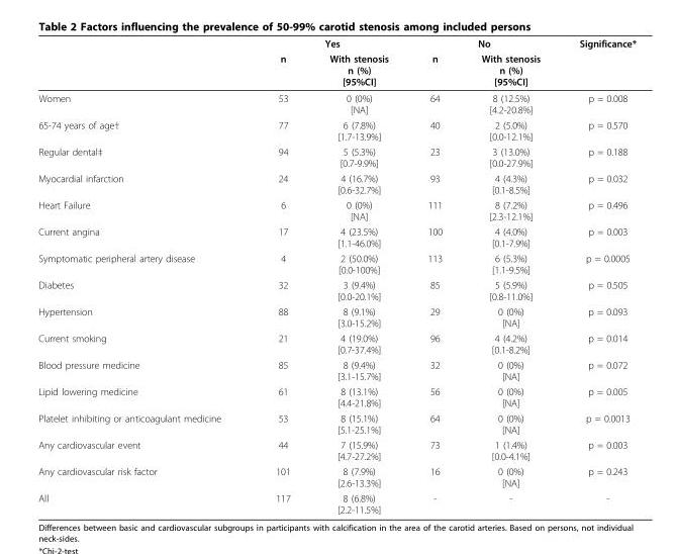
<table><thead><tr><td rowspan="2"></td><td colspan="2">Yes</td><td colspan="2">No</td><td rowspan="2">Significance*</td></tr><tr><td>n</td><td>With stenosis n (%) [95%CI]</td><td>n</td><td>With stenosis n (%) [95%CI]</td></tr></thead><tbody><tr><td>Women</td><td>53</td><td>0 (0%) [NA]</td><td>64</td><td>8 (12.5%) [4.2-20.8%]</td><td>p = 0.008</td></tr><tr><td>65-74 years of age†</td><td>77</td><td>6 (7.8%) [1.7-13.9%]</td><td>40</td><td>2 (5.0%) [0.0-12.1%]</td><td>p = 0.570</td></tr><tr><td>Regular dental‡</td><td>94</td><td>5 (5.3%) [0.7-9.9%]</td><td>23</td><td>3 (13.0%) [0.0-27.9%]</td><td>p = 0.188</td></tr><tr><td>Myocardial infarction</td><td>24</td><td>4 (16.7%) [0.6-32.7%]</td><td>93</td><td>4 (4.3%) [0.1-8.5%]</td><td>p = 0.032</td></tr><tr><td>Heart Failure</td><td>6</td><td>0 (0%) [NA]</td><td>111</td><td>8 (7.2%) [2.3-12.1%]</td><td>p = 0.496</td></tr><tr><td>Current angina</td><td>17</td><td>4 (23.5%) [1.1-46.0%]</td><td>100</td><td>4 (4.0%) [0.1-7.9%]</td><td>p = 0.003</td></tr><tr><td>Symptomatic peripheral artery disease</td><td>4</td><td>2 (50.0%) [0.0-100%]</td><td>113</td><td>6 (5.3%) [1.1-9.5%]</td><td>p = 0.0005</td></tr><tr><td>Diabetes</td><td>32</td><td>3 (9.4%) [0.0-20.1%]</td><td>85</td><td>5 (5.9%) [0.8-11.0%]</td><td>p = 0.505</td></tr><tr><td>Hypertension</td><td>88</td><td>8 (9.1%) [3.0-15.2%]</td><td>29</td><td>0 (0%) [NA]</td><td>p = 0.093</td></tr><tr><td>Current smoking</td><td>21</td><td>4 (19.0%) [0.7-37.4%]</td><td>96</td><td>4 (4.2%) [0.1-8.2%]</td><td>p = 0.014</td></tr><tr><td>Blood pressure medicine</td><td>85</td><td>8 (9.4%) [3.1-15.7%]</td><td>32</td><td>0 (0%) [NA]</td><td>p = 0.072</td></tr><tr><td>Lipid lowering medicine</td><td>61</td><td>8 (13.1%) [4.4-21.8%]</td><td>56</td><td>0 (0%) [NA]</td><td>p = 0.005</td></tr><tr><td>Platelet inhibiting or anticoagulant medicine</td><td>53</td><td>8 (15.1%) [5.1-25.1%]</td><td>64</td><td>0 (0%) [NA]</td><td>p = 0.0013</td></tr><tr><td>Any cardiovascular event</td><td>44</td><td>7 (15.9%) [4.7-27.2%]</td><td>73</td><td>1 (1.4%) [0.0-4.1%]</td><td>p = 0.003</td></tr><tr><td>Any cardiovascular risk factor</td><td>101</td><td>8 (7.9%) [2.6-13.3%]</td><td>16</td><td>0 (0%) [NA]</td><td>p = 0.243</td></tr><tr><td>All</td><td>117</td><td>8 (6.8%) [2.2-11.5%]</td><td>-</td><td>-</td><td>-</td></tr></tbody></table>